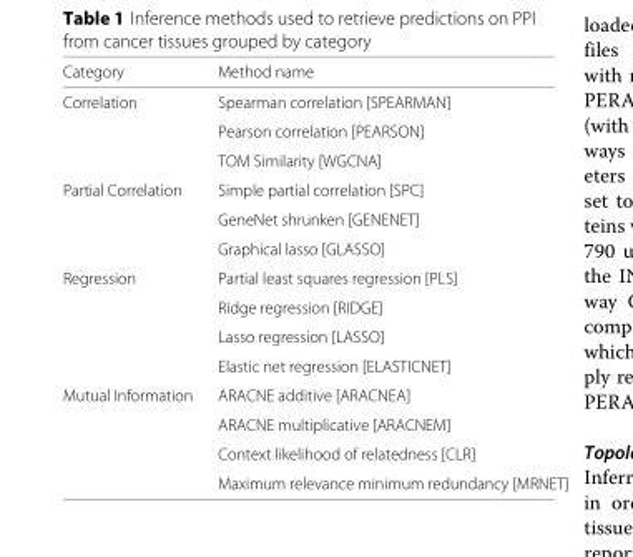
<table><thead><tr><td>Category</td><td>Method name</td></tr></thead><tbody><tr><td rowspan="3">Correlation</td><td>Spearman correlation [SPEARMAN]</td></tr><tr><td>Pearson correlation [PEARSON]</td></tr><tr><td>TOM Similarity [WGCNA]</td></tr><tr><td rowspan="3">Partial Correlation</td><td>Simple partial correlation [SPC]</td></tr><tr><td>GeneNet shrunken [GENENET]</td></tr><tr><td>Graphical lasso [GLASSO]</td></tr><tr><td rowspan="4">Regression</td><td>Partial least squares regression [PLS]</td></tr><tr><td>Ridge regression [RIDGE]</td></tr><tr><td>Lasso regression [LASSO]</td></tr><tr><td>Elastic net regression [ELASTICNET]</td></tr><tr><td rowspan="4">Mutual Information</td><td>ARACNE additive [ARACNEA]</td></tr><tr><td>ARACNE multiplicative [ARACNEM]</td></tr><tr><td>Context likelihood of relatedness [CLR]</td></tr><tr><td>Maximum relevance minimum redundancy [MRNET]</td></tr></tbody></table>